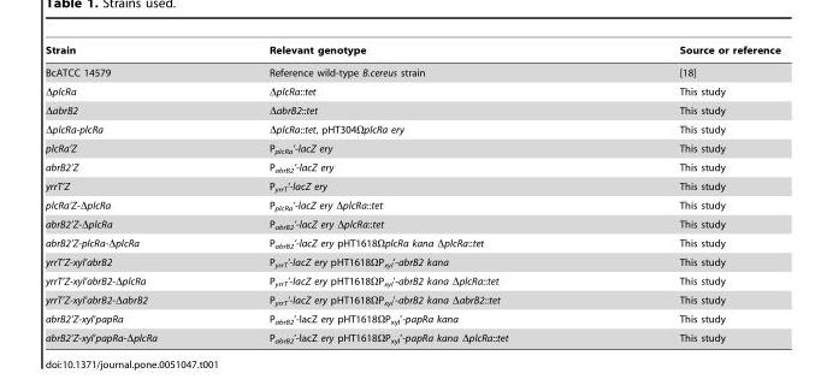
<table><thead><tr><td>Strain</td><td>Relevant genotype</td><td>Source or reference</td></tr></thead><tbody><tr><td>BcATCC 14579</td><td>Reference wild-type B.cereus strain</td><td>[18]</td></tr><tr><td>ΔplcRa</td><td>ΔplcRa::tet</td><td>This study</td></tr><tr><td>ΔabrB2</td><td>ΔabrB2::tet</td><td>This study</td></tr><tr><td>ΔplcRa-plcRa</td><td>ΔplcRa::tet, pHT304ΩplcRa ery</td><td>This study</td></tr><tr><td>plcRa’Z</td><td>P<sub>plcRa</sub>’-lacZ ery</td><td>This study</td></tr><tr><td>abrB2’Z</td><td>P<sub>abrB2</sub>’-lacZ ery</td><td>This study</td></tr><tr><td>yrrT’Z</td><td>P<sub>yrrT</sub>’-lacZ ery</td><td>This study</td></tr><tr><td>plcRa’Z-ΔplcRa</td><td>P<sub>plcRa</sub>’-lacZ ery ΔplcRa::tet</td><td>This study</td></tr><tr><td>abrB2’Z-ΔplcRa</td><td>P<sub>abrB2</sub>’-lacZ ery ΔplcRa::tet</td><td>This study</td></tr><tr><td>abrB2’Z-plcRa-ΔplcRa</td><td>P<sub>abrB2</sub>’-lacZ ery pHT1618ΩplcRa kana ΔplcRa::tet</td><td>This study</td></tr><tr><td>yrrT’Z-xyl’abrB2</td><td>P<sub>yrrT</sub>’-lacZ ery pHT1618ΩP<sub>xyl</sub>’-abrB2 kana</td><td>This study</td></tr><tr><td>yrrT’Z-xyl’abrB2-ΔplcRa</td><td>P<sub>yrrT</sub>’-lacZ ery pHT1618ΩP<sub>xyl</sub>’-abrB2 kana ΔplcRa::tet</td><td>This study</td></tr><tr><td>yrrT’Z-xyl’abrB2-ΔabrB2</td><td>P<sub>yrrT</sub>’-lacZ ery pHT1618ΩP<sub>xyl</sub>’-abrB2 kana ΔabrB2::tet</td><td>This study</td></tr><tr><td>abrB2’Z-xyl’papRa</td><td>P<sub>abrB2</sub>’-lacZ ery pHT1618ΩP<sub>xyl</sub>’-papRa kana</td><td>This study</td></tr><tr><td>abrB2’Z-xyl’papRa-ΔplcRa</td><td>P<sub>abrB2</sub>’-lacZ ery pHT1618ΩP<sub>xyl</sub>’-papRa kana ΔplcRa::tet</td><td>This study</td></tr></tbody></table>